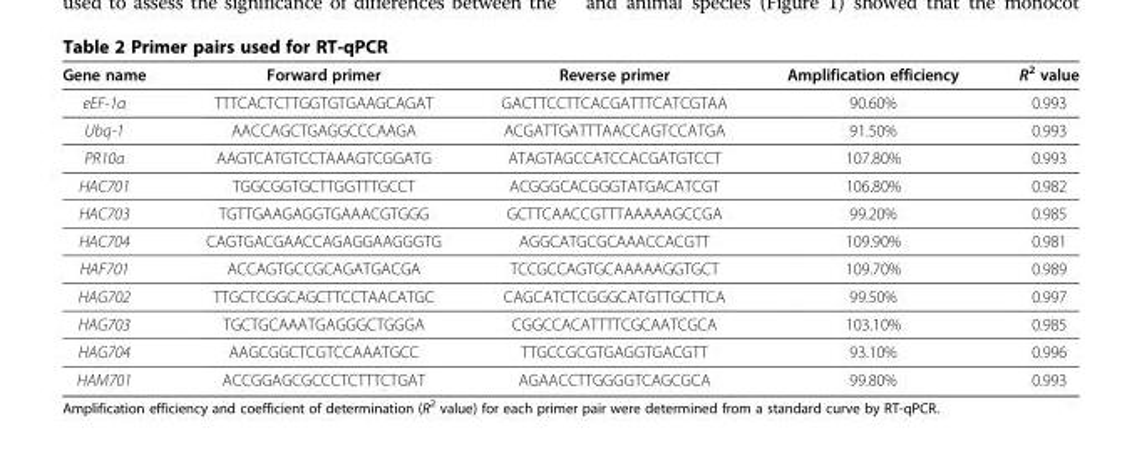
<table><thead><tr><td>Gene name</td><td>Forward primer</td><td>Reverse primer</td><td>Amplification efficiency</td><td>R<sup>2</sup> value</td></tr></thead><tbody><tr><td>eEF-1α</td><td>TTTCACTCTTGGTGTGAAGCAGAT</td><td>GACTTCCTTCACGATTTCATCGTAA</td><td>90.60%</td><td>0.993</td></tr><tr><td>Ubq-1</td><td>AACCAGCTGAGGCCCAAGA</td><td>ACGATTGATTTAACCAGTCCATGA</td><td>91.50%</td><td>0.993</td></tr><tr><td>PR10a</td><td>AAGTCATGTCCTAAAGTCGGATG</td><td>ATAGTAGCCATCCACGATGTCCT</td><td>107.80%</td><td>0.993</td></tr><tr><td>HAC701</td><td>TGGCGGTGCTTGGTTTGCCT</td><td>ACGGGCACGGGTATGACATCGT</td><td>106.80%</td><td>0.982</td></tr><tr><td>HAC703</td><td>TGTTGAAGAGGTGAAACGTGGG</td><td>GCTTCAACCGTTTAAAAAGCCGA</td><td>99.20%</td><td>0.985</td></tr><tr><td>HAC704</td><td>CAGTGACGAACCAGAGGAAGGGTG</td><td>AGGCATGCGCAAACCACGTT</td><td>109.90%</td><td>0.981</td></tr><tr><td>HAF701</td><td>ACCAGTGCCGCAGATGACGA</td><td>TCCGCCAGTGCAAAAAGGTGCT</td><td>109.70%</td><td>0.989</td></tr><tr><td>HAG702</td><td>TTGCTCGGCAGCTTCCTAACATGC</td><td>CAGCATCTCGGGCATGTTGCTTCA</td><td>99.50%</td><td>0.997</td></tr><tr><td>HAG703</td><td>TGCTGCAAATGAGGGCTGGGA</td><td>CGGCCACATTTTCGCAATCGCA</td><td>103.10%</td><td>0.985</td></tr><tr><td>HAG704</td><td>AAGCGGCTCGTCCAAATGCC</td><td>TTGCCGCGTGAGGTGACGTT</td><td>93.10%</td><td>0.996</td></tr><tr><td>HAM701</td><td>ACCGGAGCGCCCTCTTTCTGAT</td><td>AGAACCTTGGGGTCAGCGCA</td><td>99.80%</td><td>0.993</td></tr></tbody></table>